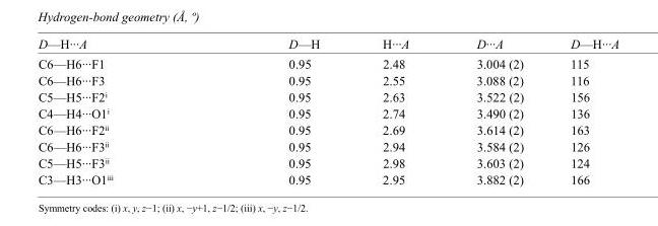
<table><tbody><tr><td>D—H···A</td><td>D—H</td><td>H···A</td><td>D···A</td><td>D—H···A</td></tr><tr><td>C6—H6···F1</td><td>0.95</td><td>2.48</td><td>3.004 (2)</td><td>115</td></tr><tr><td>C6—H6···F3</td><td>0.95</td><td>2.55</td><td>3.088 (2)</td><td>116</td></tr><tr><td>C5—H5···F2<sup>i</sup></td><td>0.95</td><td>2.63</td><td>3.522 (2)</td><td>156</td></tr><tr><td>C4—H4···O1<sup>i</sup></td><td>0.95</td><td>2.74</td><td>3.490 (2)</td><td>136</td></tr><tr><td>C6—H6···F2<sup>ii</sup></td><td>0.95</td><td>2.69</td><td>3.614 (2)</td><td>163</td></tr><tr><td>C6—H6···F3<sup>ii</sup></td><td>0.95</td><td>2.94</td><td>3.584 (2)</td><td>126</td></tr><tr><td>C5—H5···F3<sup>ii</sup></td><td>0.95</td><td>2.98</td><td>3.603 (2)</td><td>124</td></tr><tr><td>C3—H3···O1<sup>iii</sup></td><td>0.95</td><td>2.95</td><td>3.882 (2)</td><td>166</td></tr></tbody></table>